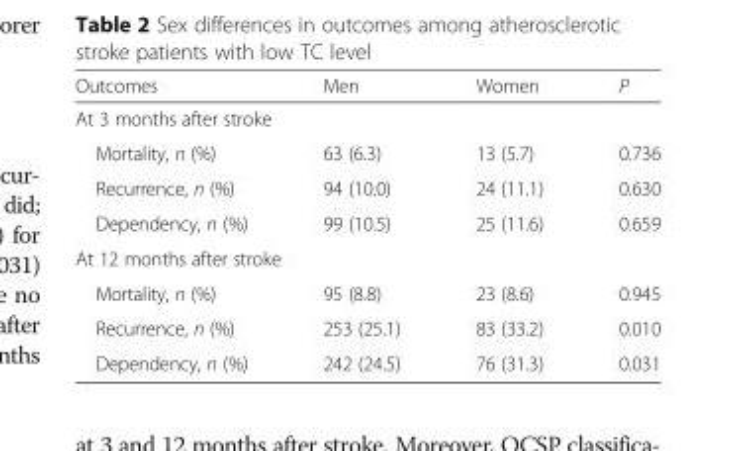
<table><thead><tr><td>Outcomes</td><td>Men</td><td>Women</td><td>P</td></tr></thead><tbody><tr><td colspan="4">At 3 months after stroke</td></tr><tr><td>Mortality, n (%)</td><td>63 (6.3)</td><td>13 (5.7)</td><td>0.736</td></tr><tr><td>Recurrence, n (%)</td><td>94 (10.0)</td><td>24 (11.1)</td><td>0.630</td></tr><tr><td>Dependency, n (%)</td><td>99 (10.5)</td><td>25 (11.6)</td><td>0.659</td></tr><tr><td colspan="4">At 12 months after stroke</td></tr><tr><td>Mortality, n (%)</td><td>95 (8.8)</td><td>23 (8.6)</td><td>0.945</td></tr><tr><td>Recurrence, n (%)</td><td>253 (25.1)</td><td>83 (33.2)</td><td>0.010</td></tr><tr><td>Dependency, n (%)</td><td>242 (24.5)</td><td>76 (31.3)</td><td>0.031</td></tr></tbody></table>